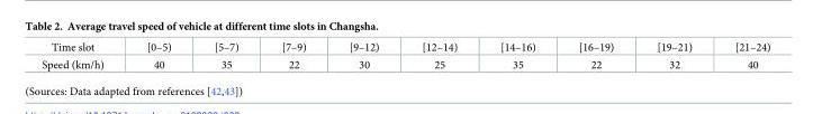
<table><tbody><tr><td>Time slot</td><td>[0–5)</td><td>[5–7)</td><td>[7–9)</td><td>[9–12)</td><td>[12–14)</td><td>[14–16)</td><td>[16–19)</td><td>[19–21)</td><td>[21–24)</td></tr><tr><td>Speed (km/h)</td><td>40</td><td>35</td><td>22</td><td>30</td><td>25</td><td>35</td><td>22</td><td>32</td><td>40</td></tr></tbody></table>